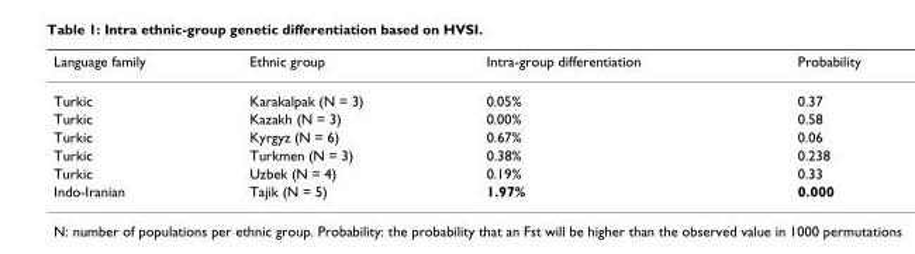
<table><thead><tr><td>Language family</td><td>Ethnic group</td><td>Intra-group differentiation</td><td>Probability</td></tr></thead><tbody><tr><td>Turkic</td><td>Karakalpak (N = 3)</td><td>0.05%</td><td>0.37</td></tr><tr><td>Turkic</td><td>Kazakh (N = 3)</td><td>0.00%</td><td>0.58</td></tr><tr><td>Turkic</td><td>Kyrgyz (N = 6)</td><td>0.67%</td><td>0.06</td></tr><tr><td>Turkic</td><td>Turkmen (N = 3)</td><td>0.38%</td><td>0.238</td></tr><tr><td>Turkic</td><td>Uzbek (N = 4)</td><td>0.19%</td><td>0.33</td></tr><tr><td>Indo-Iranian</td><td>Tajik (N = 5)</td><td>1.97%</td><td>0.000</td></tr></tbody></table>